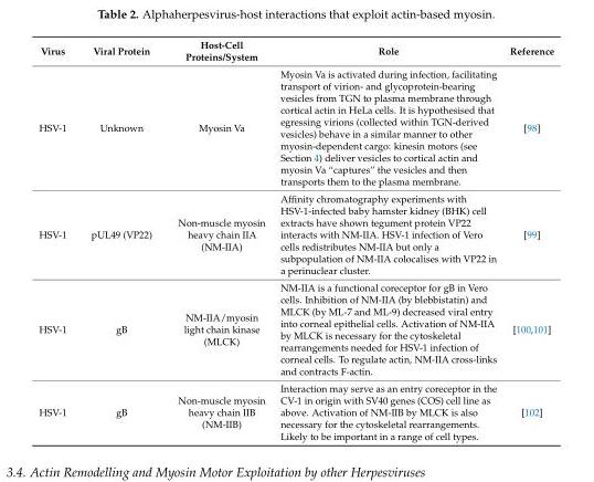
<table><thead><tr><td>Virus</td><td>Viral Protein</td><td>Host-Cell Proteins/System</td><td>Role</td><td>Reference</td></tr></thead><tbody><tr><td>HSV-1</td><td>Unknown</td><td>Myosin Va</td><td>Myosin Va is activated during infection, facilitating transport of virion- and glycoprotein-bearing vesicles from TGN to plasma membrane through cortical actin in HeLa cells. It is hypothesised that egressing virions (collected within TGN-derived vesicles) behave in a similar manner to other myosin-dependent cargo: kinesin motors (see Section 4) deliver vesicles to cortical actin and myosin Va “captures” the vesicles and then transports them to the plasma membrane.</td><td>[98]</td></tr><tr><td>HSV-1</td><td>pUL49 (VP22)</td><td>Non-muscle myosin heavy chain IIA (NM-IIA)</td><td>Affinity chromatography experiments with HSV-1-infected baby hamster kidney (BHK) cell extracts have shown tegument protein VP22 interacts with NM-IIA. HSV-1 infection of Vero cells redistributes NM-IIA but only a subpopulation of NM-IIA colocalises with VP22 in a perinuclear cluster.</td><td>[99]</td></tr><tr><td>HSV-1</td><td>gB</td><td>NM-IIA/myosin light chain kinase (MLCK)</td><td>NM-IIA is a functional coreceptor for gB in Vero cells. Inhibition of NM-IIA (by blebbistatin) and MLCK (by ML-7 and ML-9) decreased viral entry into corneal epithelial cells. Activation of NM-IIA by MLCK is necessary for the cytoskeletal rearrangements needed for HSV-1 infection of corneal cells. To regulate actin, NM-IIA cross-links and contracts F-actin.</td><td>[100,101]</td></tr><tr><td>HSV-1</td><td>gB</td><td>Non-muscle myosin heavy chain IIB (NM-IIB)</td><td>Interaction may serve as an entry coreceptor in the CV-1 in origin with SV40 genes (COS) cell line as above. Activation of NM-IIB by MLCK is also necessary for the cytoskeletal rearrangements. Likely to be important in a range of cell types.</td><td>[102]</td></tr></tbody></table>